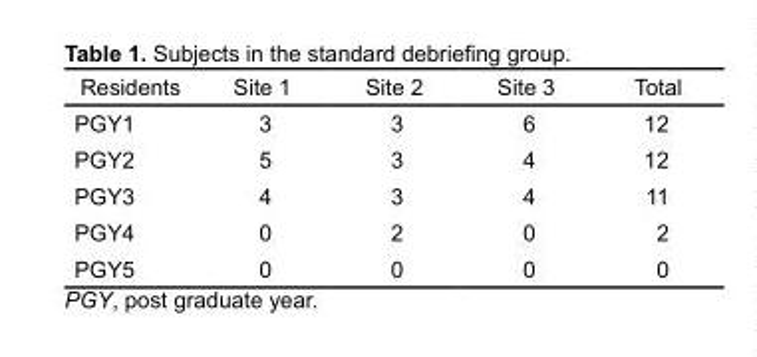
<table><thead><tr><td>Residents</td><td>Site 1</td><td>Site 2</td><td>Site 3</td><td>Total</td></tr></thead><tbody><tr><td>PGY1</td><td>3</td><td>3</td><td>6</td><td>12</td></tr><tr><td>PGY2</td><td>5</td><td>3</td><td>4</td><td>12</td></tr><tr><td>PGY3</td><td>4</td><td>3</td><td>4</td><td>11</td></tr><tr><td>PGY4</td><td>0</td><td>2</td><td>0</td><td>2</td></tr><tr><td>PGY5</td><td>0</td><td>0</td><td>0</td><td>0</td></tr></tbody></table>